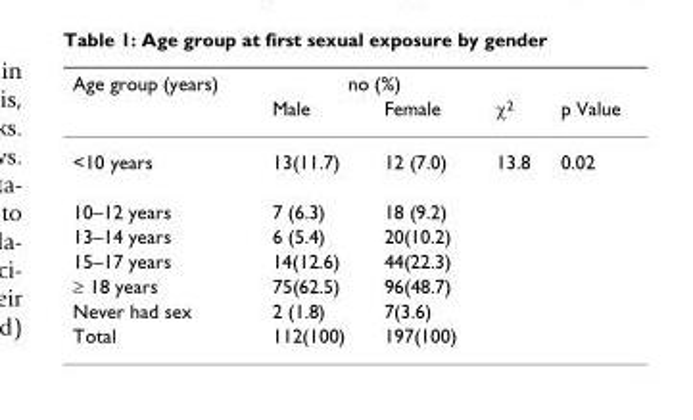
<table><thead><tr><td rowspan="2">Age group (years)</td><td colspan="2">no (%)</td><td rowspan="2">χ<sup>2</sup></td><td rowspan="2">p Value</td></tr><tr><td>Male</td><td>Female</td></tr></thead><tbody><tr><td>&lt;10 years</td><td>13(11.7)</td><td>12 (7.0)</td><td>13.8</td><td>0.02</td></tr><tr><td>10–12 years</td><td>7 (6.3)</td><td>18 (9.2)</td><td></td><td></td></tr><tr><td>13–14 years</td><td>6 (5.4)</td><td>20(10.2)</td><td></td><td></td></tr><tr><td>15–17 years</td><td>14(12.6)</td><td>44(22.3)</td><td></td><td></td></tr><tr><td>≥ 18 years</td><td>75(62.5)</td><td>96(48.7)</td><td></td><td></td></tr><tr><td>Never had sex</td><td>2 (1.8)</td><td>7(3.6)</td><td></td><td></td></tr><tr><td>Total</td><td>112(100)</td><td>197(100)</td><td></td><td></td></tr></tbody></table>